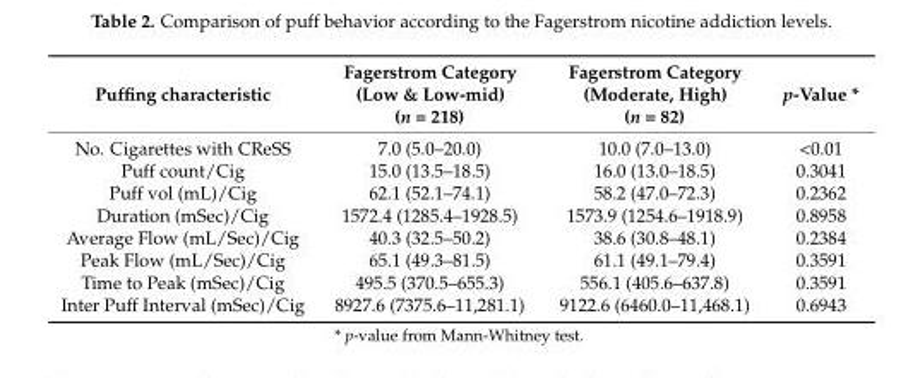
<table><thead><tr><td>Puffing characteristic</td><td>Fagerstrom Category (Low &amp; Low-mid) (n = 218)</td><td>Fagerstrom Category (Moderate, High) (n = 82)</td><td>p-Value *</td></tr></thead><tbody><tr><td>No. Cigarettes with CReSS</td><td>7.0 (5.0–20.0)</td><td>10.0 (7.0–13.0)</td><td>&lt;0.01</td></tr><tr><td>Puff count/Cig</td><td>15.0 (13.5–18.5)</td><td>16.0 (13.0–18.5)</td><td>0.3041</td></tr><tr><td>Puff vol (mL)/Cig</td><td>62.1 (52.1–74.1)</td><td>58.2 (47.0–72.3)</td><td>0.2362</td></tr><tr><td>Duration (mSec)/Cig</td><td>1572.4 (1285.4–1928.5)</td><td>1573.9 (1254.6–1918.9)</td><td>0.8958</td></tr><tr><td>Average Flow (mL/Sec)/Cig</td><td>40.3 (32.5–50.2)</td><td>38.6 (30.8–48.1)</td><td>0.2384</td></tr><tr><td>Peak Flow (mL/Sec)/Cig</td><td>65.1 (49.3–81.5)</td><td>61.1 (49.1–79.4)</td><td>0.3591</td></tr><tr><td>Time to Peak (mSec)/Cig</td><td>495.5 (370.5–655.3)</td><td>556.1 (405.6–637.8)</td><td>0.3591</td></tr><tr><td>Inter Puff Interval (mSec)/Cig</td><td>8927.6 (7375.6–11,281.1)</td><td>9122.6 (6460.0–11,468.1)</td><td>0.6943</td></tr></tbody></table>